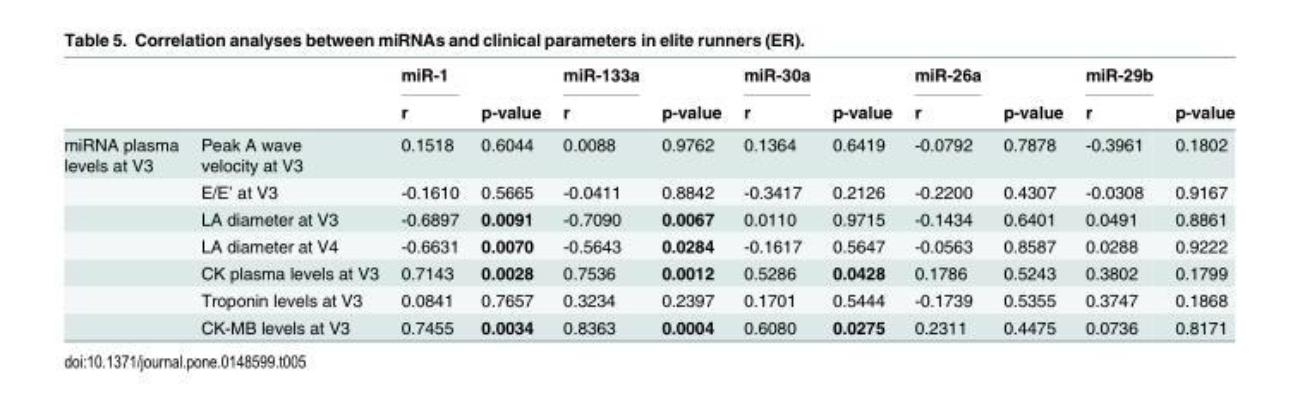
<table><thead><tr><td rowspan="2"></td><td rowspan="2"></td><td rowspan="2">miR-1 r</td><td rowspan="2">p-value</td><td rowspan="2">miR-133a r</td><td rowspan="2">p-value</td><td rowspan="2">miR-30a r</td><td rowspan="2">p-value</td><td rowspan="2">miR-26a r</td><td rowspan="2">p-value</td><td rowspan="2">miR-29b r</td><td rowspan="2">p-value</td></tr><tr></tr></thead><tbody><tr><td rowspan="7">miRNA plasma levels at V3</td><td>Peak A wave velocity at V3</td><td>0.1518</td><td>0.6044</td><td>0.0088</td><td>0.9762</td><td>0.1364</td><td>0.6419</td><td>-0.0792</td><td>0.7878</td><td>-0.3961</td><td>0.1802</td></tr><tr><td>E/E’ at V3</td><td>-0.1610</td><td>0.5665</td><td>-0.0411</td><td>0.8842</td><td>-0.3417</td><td>0.2126</td><td>-0.2200</td><td>0.4307</td><td>-0.0308</td><td>0.9167</td></tr><tr><td>LA diameter at V3</td><td>-0.6897</td><td>0.0091</td><td>-0.7090</td><td>0.0067</td><td>0.0110</td><td>0.9715</td><td>-0.1434</td><td>0.6401</td><td>0.0491</td><td>0.8861</td></tr><tr><td>LA diameter at V4</td><td>-0.6631</td><td>0.0070</td><td>-0.5643</td><td>0.0284</td><td>-0.1617</td><td>0.5647</td><td>-0.0563</td><td>0.8587</td><td>0.0288</td><td>0.9222</td></tr><tr><td>CK plasma levels at V3</td><td>0.7143</td><td>0.0028</td><td>0.7536</td><td>0.0012</td><td>0.5286</td><td>0.0428</td><td>0.1786</td><td>0.5243</td><td>0.3802</td><td>0.1799</td></tr><tr><td>Troponin levels at V3</td><td>0.0841</td><td>0.7657</td><td>0.3234</td><td>0.2397</td><td>0.1701</td><td>0.5444</td><td>-0.1739</td><td>0.5355</td><td>0.3747</td><td>0.1868</td></tr><tr><td>CK-MB levels at V3</td><td>0.7455</td><td>0.0034</td><td>0.8363</td><td>0.0004</td><td>0.6080</td><td>0.0275</td><td>0.2311</td><td>0.4475</td><td>0.0736</td><td>0.8171</td></tr></tbody></table>